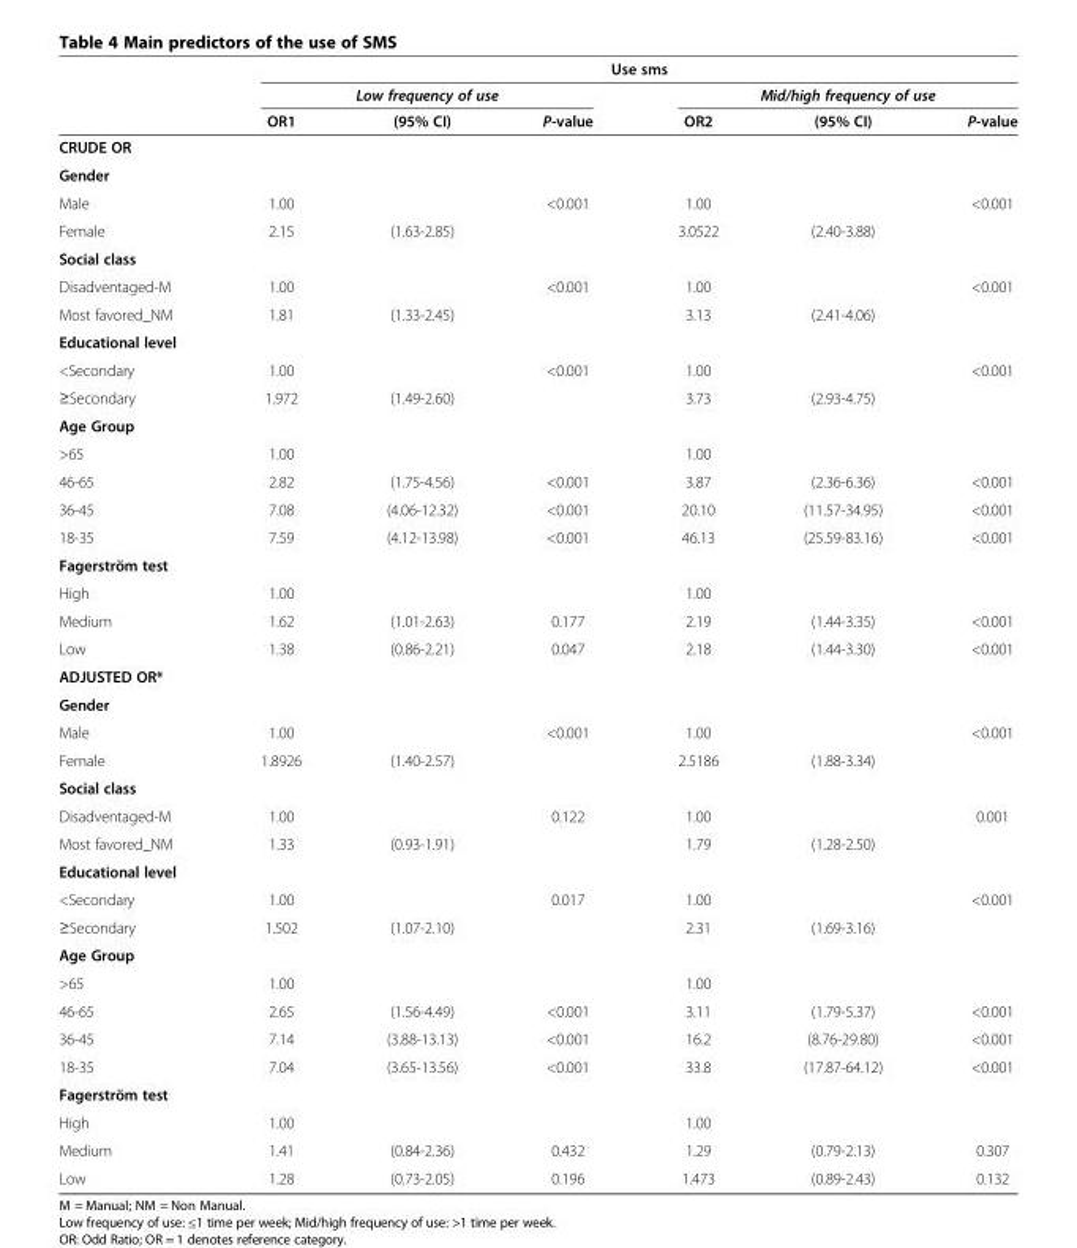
<table><thead><tr><td rowspan="3"></td><td colspan="6">Use sms</td></tr><tr><td colspan="3">Low frequency of use</td><td colspan="3">Mid/high frequency of use</td></tr><tr><td>OR1</td><td>(95% CI)</td><td>P-value</td><td>OR2</td><td>(95% CI)</td><td>P-value</td></tr></thead><tbody><tr><td colspan="7">CRUDE OR</td></tr><tr><td colspan="7">Gender</td></tr><tr><td>Male</td><td>1.00</td><td></td><td>&lt;0.001</td><td>1.00</td><td></td><td>&lt;0.001</td></tr><tr><td>Female</td><td>2.15</td><td>(1.63-2.85)</td><td></td><td>3.0522</td><td>(2.40-3.88)</td><td></td></tr><tr><td colspan="7">Social class</td></tr><tr><td>Disadventaged-M</td><td>1.00</td><td></td><td>&lt;0.001</td><td>1.00</td><td></td><td>&lt;0.001</td></tr><tr><td>Most favored_NM</td><td>1.81</td><td>(1.33-2.45)</td><td></td><td>3.13</td><td>(2.41-4.06)</td><td></td></tr><tr><td colspan="7">Educational level</td></tr><tr><td>&lt;Secondary</td><td>1.00</td><td></td><td>&lt;0.001</td><td>1.00</td><td></td><td>&lt;0.001</td></tr><tr><td>≥Secondary</td><td>1.972</td><td>(1.49-2.60)</td><td></td><td>3.73</td><td>(2.93-4.75)</td><td></td></tr><tr><td colspan="7">Age Group</td></tr><tr><td>&gt;65</td><td>1.00</td><td></td><td></td><td>1.00</td><td></td><td></td></tr><tr><td>46-65</td><td>2.82</td><td>(1.75-4.56)</td><td>&lt;0.001</td><td>3.87</td><td>(2.36-6.36)</td><td>&lt;0.001</td></tr><tr><td>36-45</td><td>7.08</td><td>(4.06-12.32)</td><td>&lt;0.001</td><td>20.10</td><td>(11.57-34.95)</td><td>&lt;0.001</td></tr><tr><td>18-35</td><td>7.59</td><td>(4.12-13.98)</td><td>&lt;0.001</td><td>46.13</td><td>(25.59-83.16)</td><td>&lt;0.001</td></tr><tr><td colspan="7">Fagerström test</td></tr><tr><td>High</td><td>1.00</td><td></td><td></td><td>1.00</td><td></td><td></td></tr><tr><td>Medium</td><td>1.62</td><td>(1.01-2.63)</td><td>0.177</td><td>2.19</td><td>(1.44-3.35)</td><td>&lt;0.001</td></tr><tr><td>Low</td><td>1.38</td><td>(0.86-2.21)</td><td>0.047</td><td>2.18</td><td>(1.44-3.30)</td><td>&lt;0.001</td></tr><tr><td colspan="7">ADJUSTED OR*</td></tr><tr><td colspan="7">Gender</td></tr><tr><td>Male</td><td>1.00</td><td></td><td>&lt;0.001</td><td>1.00</td><td></td><td>&lt;0.001</td></tr><tr><td>Female</td><td>1.8926</td><td>(1.40-2.57)</td><td></td><td>2.5186</td><td>(1.88-3.34)</td><td></td></tr><tr><td colspan="7">Social class</td></tr><tr><td>Disadventaged-M</td><td>1.00</td><td></td><td>0.122</td><td>1.00</td><td></td><td>0.001</td></tr><tr><td>Most favored_NM</td><td>1.33</td><td>(0.93-1.91)</td><td></td><td>1.79</td><td>(1.28-2.50)</td><td></td></tr><tr><td colspan="7">Educational level</td></tr><tr><td>&lt;Secondary</td><td>1.00</td><td></td><td>0.017</td><td>1.00</td><td></td><td>&lt;0.001</td></tr><tr><td>≥Secondary</td><td>1.502</td><td>(1.07-2.10)</td><td></td><td>2.31</td><td>(1.69-3.16)</td><td></td></tr><tr><td colspan="7">Age Group</td></tr><tr><td>&gt;65</td><td>1.00</td><td></td><td></td><td>1.00</td><td></td><td></td></tr><tr><td>46-65</td><td>2.65</td><td>(1.56-4.49)</td><td>&lt;0.001</td><td>3.11</td><td>(1.79-5.37)</td><td>&lt;0.001</td></tr><tr><td>36-45</td><td>7.14</td><td>(3.88-13.13)</td><td>&lt;0.001</td><td>16.2</td><td>(8.76-29.80)</td><td>&lt;0.001</td></tr><tr><td>18-35</td><td>7.04</td><td>(3.65-13.56)</td><td>&lt;0.001</td><td>33.8</td><td>(17.87-64.12)</td><td>&lt;0.001</td></tr><tr><td colspan="7">Fagerström test</td></tr><tr><td>High</td><td>1.00</td><td></td><td></td><td>1.00</td><td></td><td></td></tr><tr><td>Medium</td><td>1.41</td><td>(0.84-2.36)</td><td>0.432</td><td>1.29</td><td>(0.79-2.13)</td><td>0.307</td></tr><tr><td>Low</td><td>1.28</td><td>(0.73-2.05)</td><td>0.196</td><td>1.473</td><td>(0.89-2.43)</td><td>0.132</td></tr></tbody></table>